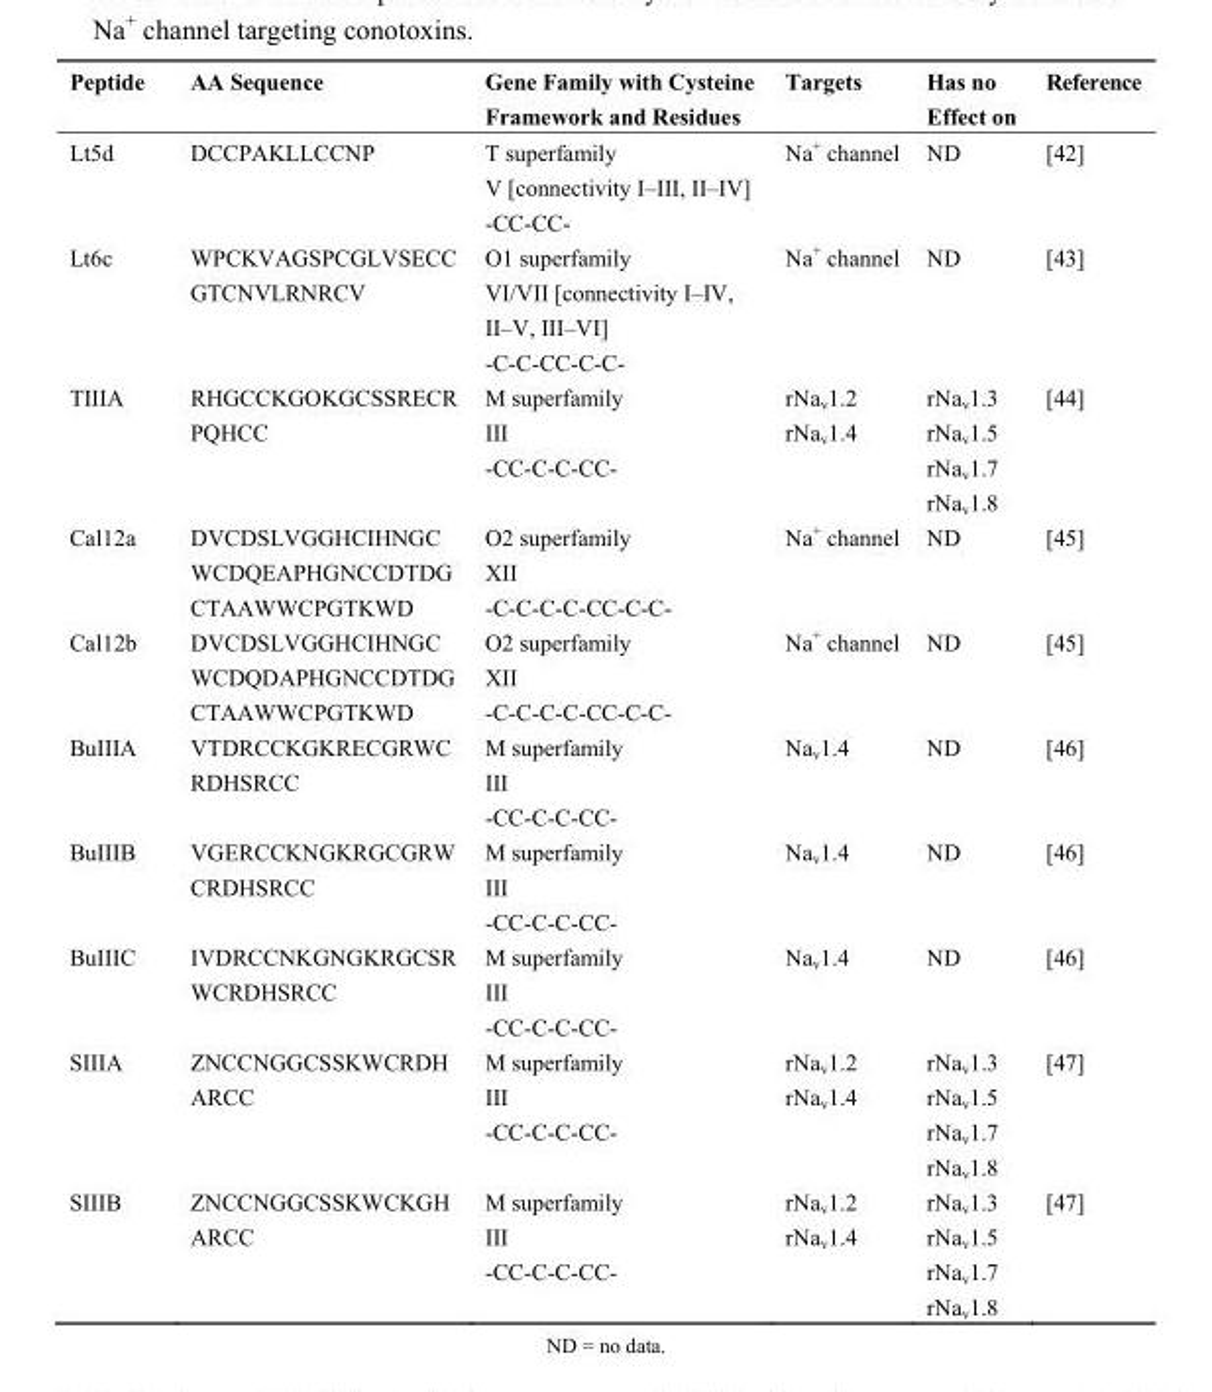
<table><thead><tr><td>Peptide</td><td>AA Sequence</td><td>Gene Family with Cysteine Framework and Residues</td><td>Targets</td><td>Has no Effect on</td><td>Reference</td></tr></thead><tbody><tr><td>Lt5d</td><td>DCCPAKLLCCNP</td><td>T superfamily V [connectivity I–III, II–IV] -CC-CC-</td><td>Na<sup>+</sup> channel</td><td>ND</td><td>[42]</td></tr><tr><td>Lt6c</td><td>WPCKVAGSPCGLVSECC GTCNVLRNRCV</td><td>O1 superfamily VI/VII [connectivity I–IV, II–V, III–VI] -C-C-CC-C-C-</td><td>Na<sup>+</sup> channel</td><td>ND</td><td>[43]</td></tr><tr><td>TIIIA</td><td>RHGCCKGOKGCSSRECR PQHCC</td><td>M superfamily III -CC-C-C-CC-</td><td>rNa<sub>v</sub>1.2 rNa<sub>v</sub>1.4</td><td>rNa<sub>v</sub>1.3 rNa<sub>v</sub>1.5 rNa<sub>v</sub>1.7 rNa<sub>v</sub>1.8</td><td>[44]</td></tr><tr><td>Cal12a</td><td>DVCDSLVGGHCIHNGC WCDQEAPHGNCCDTDG CTAAWWCPGTKWD</td><td>O2 superfamily XII -C-C-C-C-CC-C-C-</td><td>Na<sup>+</sup> channel</td><td>ND</td><td>[45]</td></tr><tr><td>Cal12b</td><td>DVCDSLVGGHCIHNGC WCDQDAPHGNCCDTDG CTAAWWCPGTKWD</td><td>O2 superfamily XII -C-C-C-C-CC-C-C-</td><td>Na<sup>+</sup> channel</td><td>ND</td><td>[45]</td></tr><tr><td>BuIIIA</td><td>VTDRCCKGKRECGRWC RDHSRCC</td><td>M superfamily III -CC-C-C-CC-</td><td>Na<sub>v</sub>1.4</td><td>ND</td><td>[46]</td></tr><tr><td>BuIIIB</td><td>VGERCCKNGKRGCGRW CRDHSRCC</td><td>M superfamily III -CC-C-C-CC-</td><td>Na<sub>v</sub>1.4</td><td>ND</td><td>[46]</td></tr><tr><td>BuIIIC</td><td>IVDRCCNKGNGKRGCSR WCRDHSRCC</td><td>M superfamily III -CC-C-C-CC-</td><td>Na<sub>v</sub>1.4</td><td>ND</td><td>[46]</td></tr><tr><td>SIIIA</td><td>ZNCCNGGCSSKWCRDH ARCC</td><td>M superfamily III -CC-C-C-CC-</td><td>rNa<sub>v</sub>1.2 rNa<sub>v</sub>1.4</td><td>rNa<sub>v</sub>1.3 rNa<sub>v</sub>1.5 rNa<sub>v</sub>1.7 rNa<sub>v</sub>1.8</td><td>[47]</td></tr><tr><td>SIIIB</td><td>ZNCCNGGCSSKWCKGH ARCC</td><td>M superfamily III -CC-C-C-CC-</td><td>rNa<sub>v</sub>1.2 rNa<sub>v</sub>1.4</td><td>rNa<sub>v</sub>1.3 rNa<sub>v</sub>1.5 rNa<sub>v</sub>1.7 rNa<sub>v</sub>1.8</td><td>[47]</td></tr></tbody></table>